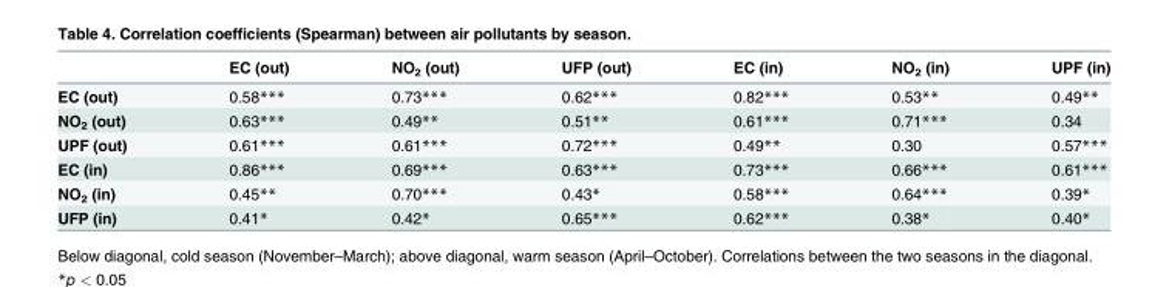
<table><thead><tr><td></td><td>EC (out)</td><td>NO<sub>2</sub> (out)</td><td>UFP (out)</td><td>EC (in)</td><td>NO<sub>2</sub> (in)</td><td>UPF (in)</td></tr></thead><tbody><tr><td>EC (out)</td><td>0.58***</td><td>0.73***</td><td>0.62***</td><td>0.82***</td><td>0.53**</td><td>0.49**</td></tr><tr><td>NO<sub>2</sub> (out)</td><td>0.63***</td><td>0.49**</td><td>0.51**</td><td>0.61***</td><td>0.71***</td><td>0.34</td></tr><tr><td>UPF (out)</td><td>0.61***</td><td>0.61***</td><td>0.72***</td><td>0.49**</td><td>0.30</td><td>0.57***</td></tr><tr><td>EC (in)</td><td>0.86***</td><td>0.69***</td><td>0.63***</td><td>0.73***</td><td>0.66***</td><td>0.61***</td></tr><tr><td>NO<sub>2</sub> (in)</td><td>0.45**</td><td>0.70***</td><td>0.43*</td><td>0.58***</td><td>0.64***</td><td>0.39*</td></tr><tr><td>UFP (in)</td><td>0.41*</td><td>0.42*</td><td>0.65***</td><td>0.62***</td><td>0.38*</td><td>0.40*</td></tr></tbody></table>